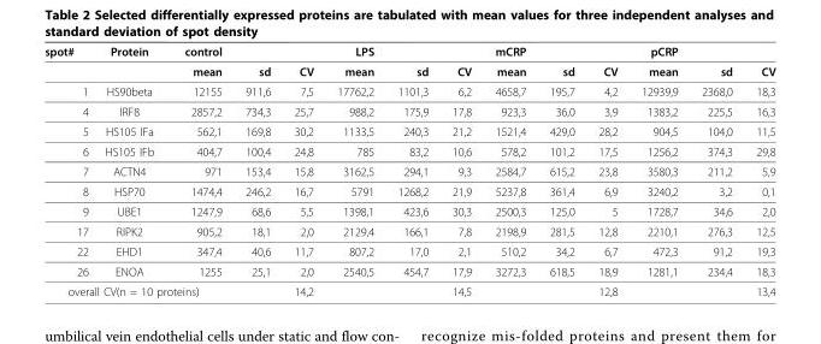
<table><thead><tr><td>spot#</td><td>Protein</td><td>control</td><td></td><td></td><td>LPS</td><td></td><td></td><td>mCRP</td><td></td><td></td><td>pCRP</td><td></td><td></td></tr></thead><tbody><tr><td></td><td></td><td>mean</td><td>sd</td><td>CV</td><td>mean</td><td>sd</td><td>CV</td><td>mean</td><td>sd</td><td>CV</td><td>mean</td><td>sd</td><td>CV</td></tr><tr><td>1</td><td>HS90beta</td><td>12155</td><td>911,6</td><td>7,5</td><td>17762,2</td><td>1101,3</td><td>6,2</td><td>4658,7</td><td>195,7</td><td>4,2</td><td>12939,9</td><td>2368,0</td><td>18,3</td></tr><tr><td>4</td><td>IRF8</td><td>2857,2</td><td>734,3</td><td>25,7</td><td>988,2</td><td>175,9</td><td>17,8</td><td>923,3</td><td>36,0</td><td>3,9</td><td>1383,2</td><td>225,5</td><td>16,3</td></tr><tr><td>5</td><td>HS105 IFa</td><td>562,1</td><td>169,8</td><td>30,2</td><td>1133,5</td><td>240,3</td><td>21,2</td><td>1521,4</td><td>429,0</td><td>28,2</td><td>904,5</td><td>104,0</td><td>11,5</td></tr><tr><td>6</td><td>HS105 IFb</td><td>404,7</td><td>100,4</td><td>24,8</td><td>785</td><td>83,2</td><td>10,6</td><td>578,2</td><td>101,2</td><td>17,5</td><td>1256,2</td><td>374,3</td><td>29,8</td></tr><tr><td>7</td><td>ACTN4</td><td>971</td><td>153,4</td><td>15,8</td><td>3162,5</td><td>294,1</td><td>9,3</td><td>2584,7</td><td>615,2</td><td>23,8</td><td>3580,3</td><td>211,2</td><td>5,9</td></tr><tr><td>8</td><td>HSP70</td><td>1474,4</td><td>246,2</td><td>16,7</td><td>5791</td><td>1268,2</td><td>21,9</td><td>5237,8</td><td>361,4</td><td>6,9</td><td>3240,2</td><td>3,2</td><td>0,1</td></tr><tr><td>9</td><td>UBE1</td><td>1247,9</td><td>68,6</td><td>5,5</td><td>1398,1</td><td>423,6</td><td>30,3</td><td>2500,3</td><td>125,0</td><td>5</td><td>1728,7</td><td>34,6</td><td>2,0</td></tr><tr><td>17</td><td>RIPK2</td><td>905,2</td><td>18,1</td><td>2,0</td><td>2129,4</td><td>166,1</td><td>7,8</td><td>2198,9</td><td>281,5</td><td>12,8</td><td>2210,1</td><td>276,3</td><td>12,5</td></tr><tr><td>22</td><td>EHD1</td><td>347,4</td><td>40,6</td><td>11,7</td><td>807,2</td><td>17,0</td><td>2,1</td><td>510,2</td><td>34,2</td><td>6,7</td><td>472,3</td><td>91,2</td><td>19,3</td></tr><tr><td>26</td><td>ENOA</td><td>1255</td><td>25,1</td><td>2,0</td><td>2540,5</td><td>454,7</td><td>17,9</td><td>3272,3</td><td>618,5</td><td>18,9</td><td>1281,1</td><td>234,4</td><td>18,3</td></tr><tr><td colspan="3">overall CV(n = 10 proteins)</td><td></td><td>14,2</td><td></td><td></td><td>14,5</td><td></td><td></td><td>12,8</td><td></td><td></td><td>13,4</td></tr></tbody></table>